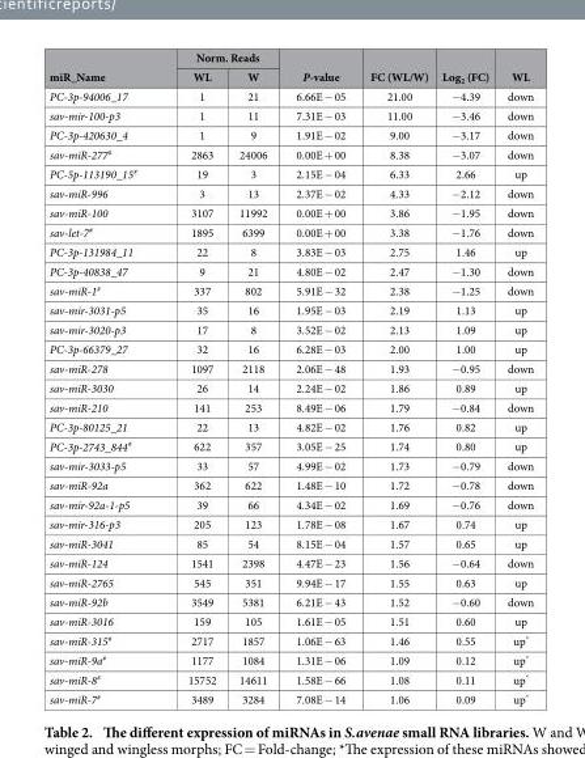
<table><thead><tr><td rowspan="2">miR_Name</td><td colspan="2">Norm. Reads</td><td rowspan="2">P-value</td><td rowspan="2">FC (WL/W)</td><td rowspan="2">Log<sub>2</sub> (FC)</td><td rowspan="2">WL</td></tr><tr><td>WL</td><td>W</td></tr></thead><tbody><tr><td>PC-3p-94006_17</td><td>1</td><td>21</td><td>6.66E − 05</td><td>21.00</td><td>− 4.39</td><td>down</td></tr><tr><td>sav-mir-100-p3</td><td>1</td><td>11</td><td>7.31E − 03</td><td>11.00</td><td>− 3.46</td><td>down</td></tr><tr><td>PC-3p-420630_4</td><td>1</td><td>9</td><td>1.91E − 02</td><td>9.00</td><td>− 3.17</td><td>down</td></tr><tr><td>sav-miR-277<sup>#</sup></td><td>2863</td><td>24006</td><td>0.00E + 00</td><td>8.38</td><td>− 3.07</td><td>down</td></tr><tr><td>PC-5p-113190_15<sup>#</sup></td><td>19</td><td>3</td><td>2.15E − 04</td><td>6.33</td><td>2.66</td><td>up</td></tr><tr><td>sav-miR-996</td><td>3</td><td>13</td><td>2.37E − 02</td><td>4.33</td><td>− 2.12</td><td>down</td></tr><tr><td>sav-miR-100</td><td>3107</td><td>11992</td><td>0.00E + 00</td><td>3.86</td><td>− 1.95</td><td>down</td></tr><tr><td>sav-let-7<sup>#</sup></td><td>1895</td><td>6399</td><td>0.00E + 00</td><td>3.38</td><td>− 1.76</td><td>down</td></tr><tr><td>PC-3p-131984_11</td><td>22</td><td>8</td><td>3.83E − 03</td><td>2.75</td><td>1.46</td><td>up</td></tr><tr><td>PC-3p-40838_47</td><td>9</td><td>21</td><td>4.80E − 02</td><td>2.47</td><td>− 1.30</td><td>down</td></tr><tr><td>sav-miR-1<sup>#</sup></td><td>337</td><td>802</td><td>5.91E − 32</td><td>2.38</td><td>− 1.25</td><td>down</td></tr><tr><td>sav-mir-3031-p5</td><td>35</td><td>16</td><td>1.95E − 03</td><td>2.19</td><td>1.13</td><td>up</td></tr><tr><td>sav-mir-3020-p3</td><td>17</td><td>8</td><td>3.52E − 02</td><td>2.13</td><td>1.09</td><td>up</td></tr><tr><td>PC-3p-66379_27</td><td>32</td><td>16</td><td>6.28E − 03</td><td>2.00</td><td>1.00</td><td>up</td></tr><tr><td>sav-miR-278</td><td>1097</td><td>2118</td><td>2.06E − 48</td><td>1.93</td><td>− 0.95</td><td>down</td></tr><tr><td>sav-miR-3030</td><td>26</td><td>14</td><td>2.24E − 02</td><td>1.86</td><td>0.89</td><td>up</td></tr><tr><td>sav-miR-210</td><td>141</td><td>253</td><td>8.49E − 06</td><td>1.79</td><td>− 0.84</td><td>down</td></tr><tr><td>PC-3p-80125_21</td><td>22</td><td>13</td><td>4.82E − 02</td><td>1.76</td><td>0.82</td><td>up</td></tr><tr><td>PC-3p-2743_844<sup>#</sup></td><td>622</td><td>357</td><td>3.05E − 25</td><td>1.74</td><td>0.80</td><td>up</td></tr><tr><td>sav-mir-3033-p5</td><td>33</td><td>57</td><td>4.99E − 02</td><td>1.73</td><td>− 0.79</td><td>down</td></tr><tr><td>sav-miR-92a</td><td>362</td><td>622</td><td>1.48E − 10</td><td>1.72</td><td>− 0.78</td><td>down</td></tr><tr><td>sav-mir-92a-1-p5</td><td>39</td><td>66</td><td>4.34E − 02</td><td>1.69</td><td>− 0.76</td><td>down</td></tr><tr><td>sav-mir-316-p3</td><td>205</td><td>123</td><td>1.78E − 08</td><td>1.67</td><td>0.74</td><td>up</td></tr><tr><td>sav-miR-3041</td><td>85</td><td>54</td><td>8.15E − 04</td><td>1.57</td><td>0.65</td><td>up</td></tr><tr><td>sav-miR-124</td><td>1541</td><td>2398</td><td>4.47E − 23</td><td>1.56</td><td>− 0.64</td><td>down</td></tr><tr><td>sav-miR-2765</td><td>545</td><td>351</td><td>9.94E − 17</td><td>1.55</td><td>0.63</td><td>up</td></tr><tr><td>sav-miR-92b</td><td>3549</td><td>5381</td><td>6.21E − 43</td><td>1.52</td><td>− 0.60</td><td>down</td></tr><tr><td>sav-miR-3016</td><td>159</td><td>105</td><td>1.61E − 05</td><td>1.51</td><td>0.60</td><td>up</td></tr><tr><td>sav-miR-315<sup>#</sup></td><td>2717</td><td>1857</td><td>1.06E − 63</td><td>1.46</td><td>0.55</td><td>up*</td></tr><tr><td>sav-miR-9a<sup>#</sup></td><td>1177</td><td>1084</td><td>1.31E − 06</td><td>1.09</td><td>0.12</td><td>up*</td></tr><tr><td>sav-miR-8<sup>#</sup></td><td>15752</td><td>14611</td><td>1.58E − 66</td><td>1.08</td><td>0.11</td><td>up*</td></tr><tr><td>sav-miR-7<sup>#</sup></td><td>3489</td><td>3284</td><td>7.08E − 14</td><td>1.06</td><td>0.09</td><td>up*</td></tr></tbody></table>